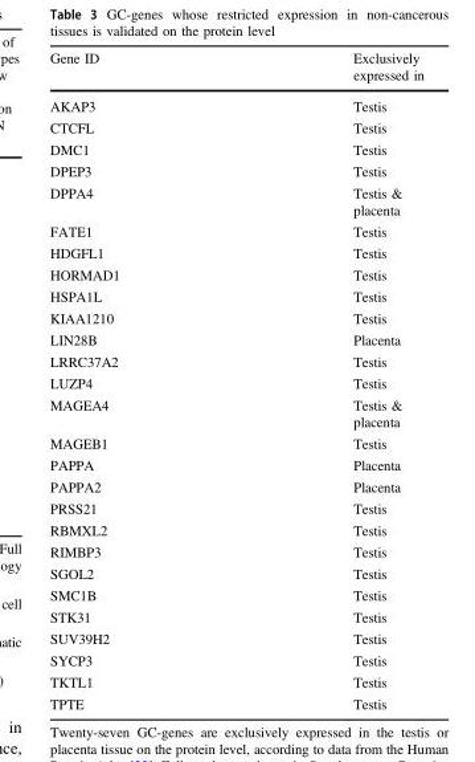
<table><thead><tr><td>Gene ID</td><td>Exclusively expressed in</td></tr></thead><tbody><tr><td>AKAP3</td><td>Testis</td></tr><tr><td>CTCFL</td><td>Testis</td></tr><tr><td>DMC1</td><td>Testis</td></tr><tr><td>DPEP3</td><td>Testis</td></tr><tr><td>DPPA4</td><td>Testis &amp; placenta</td></tr><tr><td>FATE1</td><td>Testis</td></tr><tr><td>HDGFL1</td><td>Testis</td></tr><tr><td>HORMAD1</td><td>Testis</td></tr><tr><td>HSPA1L</td><td>Testis</td></tr><tr><td>KIAA1210</td><td>Testis</td></tr><tr><td>LIN28B</td><td>Placenta</td></tr><tr><td>LRRC37A2</td><td>Testis</td></tr><tr><td>LUZP4</td><td>Testis</td></tr><tr><td>MAGEA4</td><td>Testis &amp; placenta</td></tr><tr><td>MAGEB1</td><td>Testis</td></tr><tr><td>PAPPA</td><td>Placenta</td></tr><tr><td>PAPPA2</td><td>Placenta</td></tr><tr><td>PRSS21</td><td>Testis</td></tr><tr><td>RBMXL2</td><td>Testis</td></tr><tr><td>RIMBP3</td><td>Testis</td></tr><tr><td>SGOL2</td><td>Testis</td></tr><tr><td>SMC1B</td><td>Testis</td></tr><tr><td>STK31</td><td>Testis</td></tr><tr><td>SUV39H2</td><td>Testis</td></tr><tr><td>SYCP3</td><td>Testis</td></tr><tr><td>TKTL1</td><td>Testis</td></tr><tr><td>TPTE</td><td>Testis</td></tr></tbody></table>